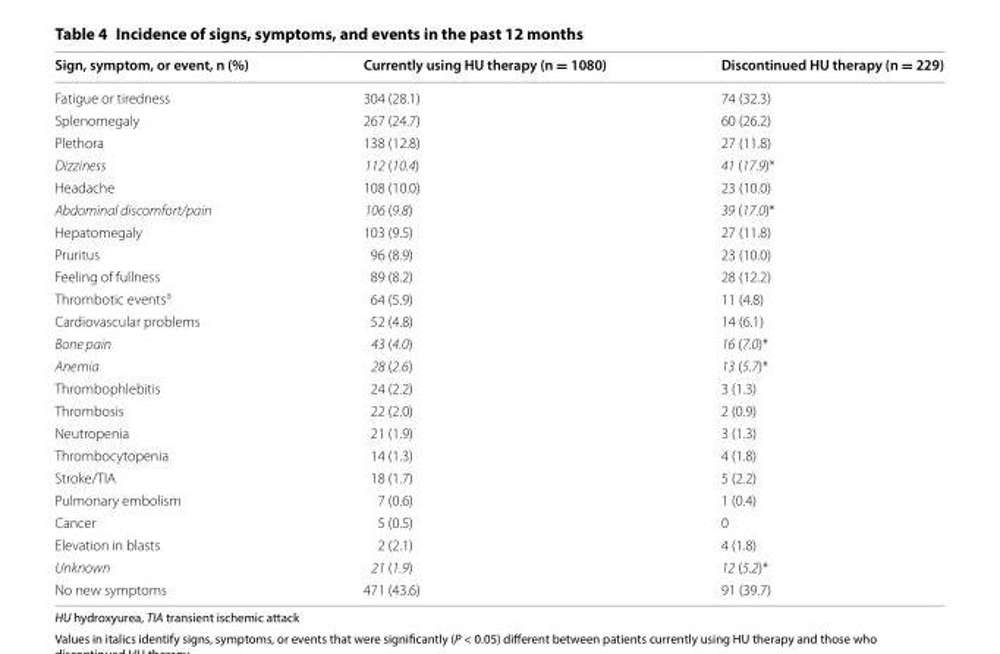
<table><thead><tr><td>Sign, symptom, or event, n (%)</td><td>Currently using HU therapy (n = 1080)</td><td>Discontinued HU therapy (n = 229)</td></tr></thead><tbody><tr><td>Fatigue or tiredness</td><td>304 (28.1)</td><td>74 (32.3)</td></tr><tr><td>Splenomegaly</td><td>267 (24.7)</td><td>60 (26.2)</td></tr><tr><td>Plethora</td><td>138 (12.8)</td><td>27 (11.8)</td></tr><tr><td>Dizziness</td><td>112 (10.4)</td><td>41 (17.9)*</td></tr><tr><td>Headache</td><td>108 (10.0)</td><td>23 (10.0)</td></tr><tr><td>Abdominal discomfort/pain</td><td>106 (9.8)</td><td>39 (17.0)*</td></tr><tr><td>Hepatomegaly</td><td>103 (9.5)</td><td>27 (11.8)</td></tr><tr><td>Pruritus</td><td>96 (8.9)</td><td>23 (10.0)</td></tr><tr><td>Feeling of fullness</td><td>89 (8.2)</td><td>28 (12.2)</td></tr><tr><td>Thrombotic events<sup>a</sup></td><td>64 (5.9)</td><td>11 (4.8)</td></tr><tr><td>Cardiovascular problems</td><td>52 (4.8)</td><td>14 (6.1)</td></tr><tr><td>Bone pain</td><td>43 (4.0)</td><td>16 (7.0)*</td></tr><tr><td>Anemia</td><td>28 (2.6)</td><td>13 (5.7)*</td></tr><tr><td>Thrombophlebitis</td><td>24 (2.2)</td><td>3 (1.3)</td></tr><tr><td>Thrombosis</td><td>22 (2.0)</td><td>2 (0.9)</td></tr><tr><td>Neutropenia</td><td>21 (1.9)</td><td>3 (1.3)</td></tr><tr><td>Thrombocytopenia</td><td>14 (1.3)</td><td>4 (1.8)</td></tr><tr><td>Stroke/TIA</td><td>18 (1.7)</td><td>5 (2.2)</td></tr><tr><td>Pulmonary embolism</td><td>7 (0.6)</td><td>1 (0.4)</td></tr><tr><td>Cancer</td><td>5 (0.5)</td><td>0</td></tr><tr><td>Elevation in blasts</td><td>2 (2.1)</td><td>4 (1.8)</td></tr><tr><td>Unknown</td><td>21 (1.9)</td><td>12 (5.2)*</td></tr><tr><td>No new symptoms</td><td>471 (43.6)</td><td>91 (39.7)</td></tr></tbody></table>